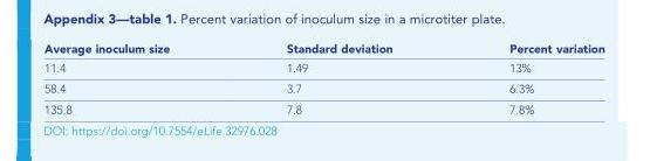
<table><thead><tr><td>Average inoculum size</td><td>Standard deviation</td><td>Percent variation</td></tr></thead><tbody><tr><td>11.4</td><td>1.49</td><td>13%</td></tr><tr><td>58.4</td><td>3.7</td><td>6.3%</td></tr><tr><td>135.8</td><td>7.8</td><td>7.8%</td></tr></tbody></table>